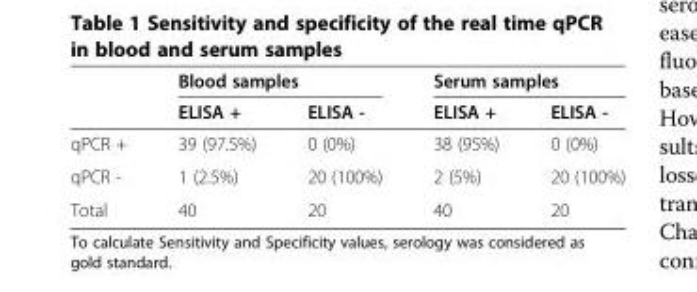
<table><thead><tr><td rowspan="2"></td><td colspan="2">Blood samples</td><td colspan="2">Serum samples</td></tr><tr><td>ELISA +</td><td>ELISA -</td><td>ELISA +</td><td>ELISA -</td></tr></thead><tbody><tr><td>qPCR +</td><td>39 (97.5%)</td><td>0 (0%)</td><td>38 (95%)</td><td>0 (0%)</td></tr><tr><td>qPCR -</td><td>1 (2.5%)</td><td>20 (100%)</td><td>2 (5%)</td><td>20 (100%)</td></tr><tr><td>Total</td><td>40</td><td>20</td><td>40</td><td>20</td></tr></tbody></table>